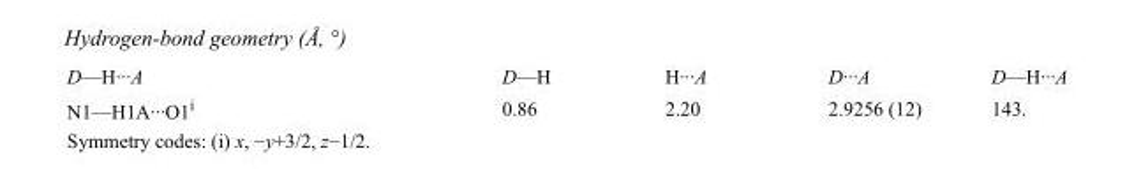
<table><tbody><tr><td>D—H···A</td><td>D—H</td><td>H···A</td><td>D···A</td><td>D—H···A</td></tr><tr><td>N1—H1A···O1<sup>i</sup></td><td>0.86</td><td>2.20</td><td>2.9256 (12)</td><td>143.</td></tr></tbody></table>